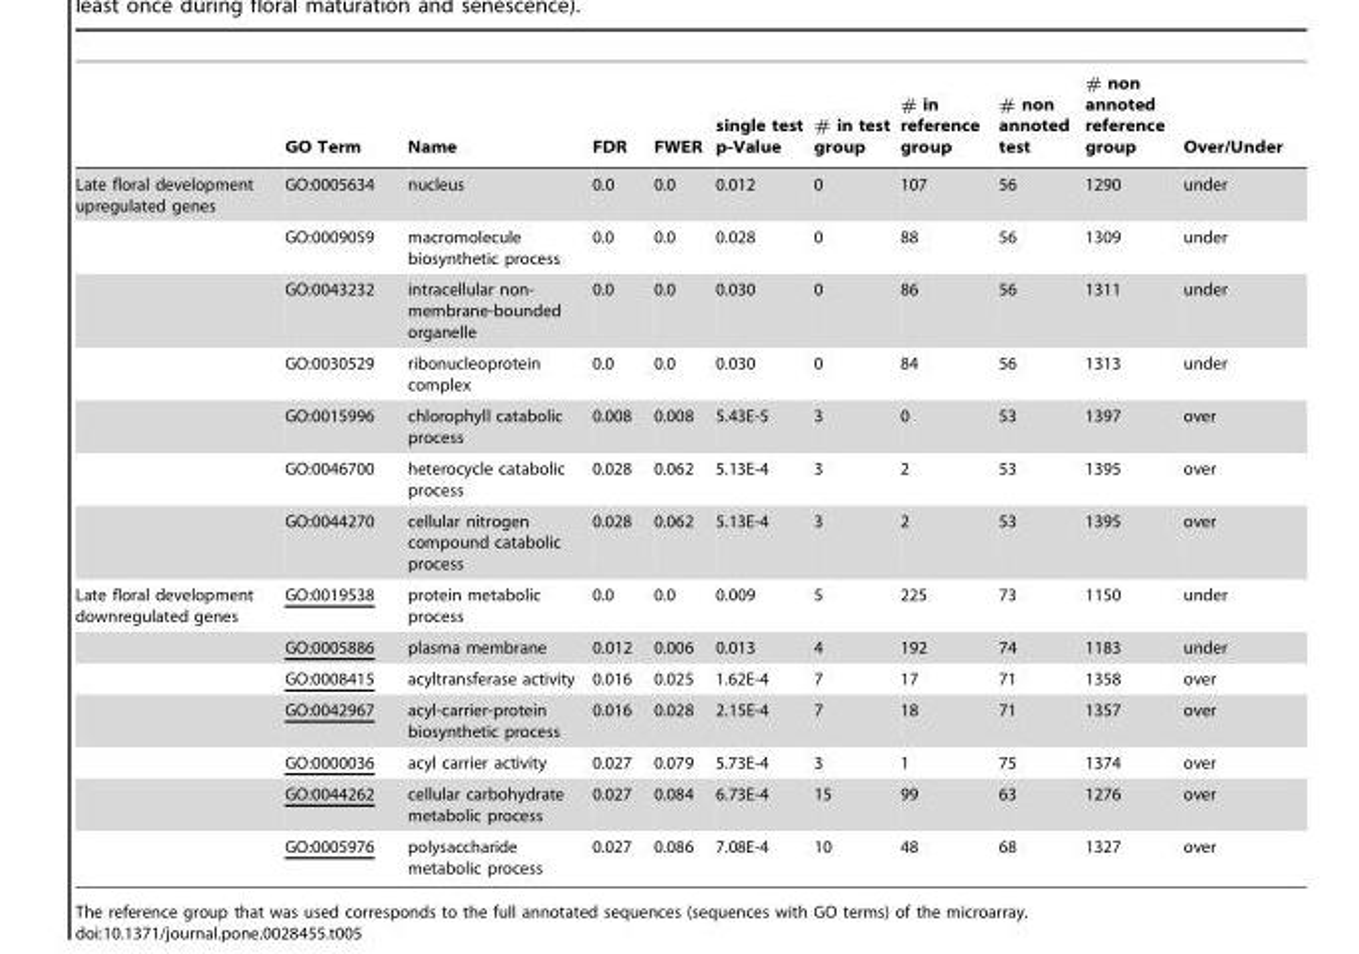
<table><thead><tr><td></td><td>GO Term</td><td>Name</td><td>FDR</td><td>FWER</td><td>single test p-Value</td><td># in test group</td><td># in reference group</td><td># non annoted test</td><td># non annoted reference group</td><td>Over/Under</td></tr></thead><tbody><tr><td rowspan="7">Late floral development upregulated genes</td><td>GO:0005634</td><td>nucleus</td><td>0.0</td><td>0.0</td><td>0.012</td><td>0</td><td>107</td><td>56</td><td>1290</td><td>under</td></tr><tr><td>GO:0009059</td><td>macromolecule biosynthetic process</td><td>0.0</td><td>0.0</td><td>0.028</td><td>0</td><td>88</td><td>56</td><td>1309</td><td>under</td></tr><tr><td>GO:0043232</td><td>intracellular non- membrane-bounded organelle</td><td>0.0</td><td>0.0</td><td>0.030</td><td>0</td><td>86</td><td>56</td><td>1311</td><td>under</td></tr><tr><td>GO:0030529</td><td>ribonucleoprotein complex</td><td>0.0</td><td>0.0</td><td>0.030</td><td>0</td><td>84</td><td>56</td><td>1313</td><td>under</td></tr><tr><td>GO:0015996</td><td>chlorophyll catabolic process</td><td>0.008</td><td>0.008</td><td>5.43E-5</td><td>3</td><td>0</td><td>53</td><td>1397</td><td>over</td></tr><tr><td>GO:0046700</td><td>heterocycle catabolic process</td><td>0.028</td><td>0.062</td><td>5.13E-4</td><td>3</td><td>2</td><td>53</td><td>1395</td><td>over</td></tr><tr><td>GO:0044270</td><td>cellular nitrogen compound catabolic process</td><td>0.028</td><td>0.062</td><td>5.13E-4</td><td>3</td><td>2</td><td>53</td><td>1395</td><td>over</td></tr><tr><td rowspan="7">Late floral development downregulated genes</td><td>GO:0019538</td><td>protein metabolic process</td><td>0.0</td><td>0.0</td><td>0.009</td><td>5</td><td>225</td><td>73</td><td>1150</td><td>under</td></tr><tr><td>GO:0005886</td><td>plasma membrane</td><td>0.012</td><td>0.006</td><td>0.013</td><td>4</td><td>192</td><td>74</td><td>1183</td><td>under</td></tr><tr><td>GO:0008415</td><td>acyltransferase activity</td><td>0.016</td><td>0.025</td><td>1.62E-4</td><td>7</td><td>17</td><td>71</td><td>1358</td><td>over</td></tr><tr><td>GO:0042967</td><td>acyl-carrier-protein biosynthetic process</td><td>0.016</td><td>0.028</td><td>2.15E-4</td><td>7</td><td>18</td><td>71</td><td>1357</td><td>over</td></tr><tr><td>GO:0000036</td><td>acyl carrier activity</td><td>0.027</td><td>0.079</td><td>5.73E-4</td><td>3</td><td>1</td><td>75</td><td>1374</td><td>over</td></tr><tr><td>GO:0044262</td><td>cellular carbohydrate metabolic process</td><td>0.027</td><td>0.084</td><td>6.73E-4</td><td>15</td><td>99</td><td>63</td><td>1276</td><td>over</td></tr><tr><td>GO:0005976</td><td>polysaccharide metabolic process</td><td>0.027</td><td>0.086</td><td>7.08E-4</td><td>10</td><td>48</td><td>68</td><td>1327</td><td>over</td></tr></tbody></table>